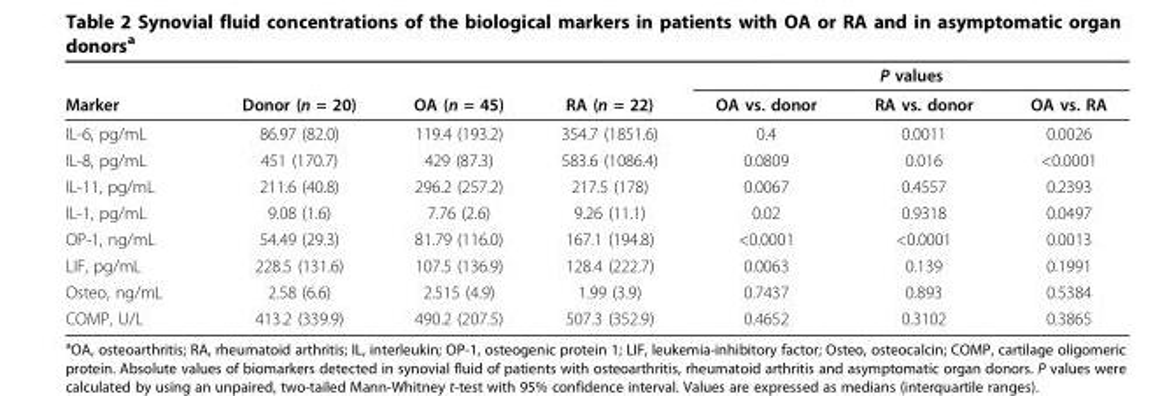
<table><thead><tr><td rowspan="2">Marker</td><td rowspan="2">Donor (n = 20)</td><td rowspan="2">OA (n = 45)</td><td rowspan="2">RA (n = 22)</td><td colspan="3">P values</td></tr><tr><td>OA vs. donor</td><td>RA vs. donor</td><td>OA vs. RA</td></tr></thead><tbody><tr><td>IL-6, pg/mL</td><td>86.97 (82.0)</td><td>119.4 (193.2)</td><td>354.7 (1851.6)</td><td>0.4</td><td>0.0011</td><td>0.0026</td></tr><tr><td>IL-8, pg/mL</td><td>451 (170.7)</td><td>429 (87.3)</td><td>583.6 (1086.4)</td><td>0.0809</td><td>0.016</td><td>&lt;0.0001</td></tr><tr><td>IL-11, pg/mL</td><td>211.6 (40.8)</td><td>296.2 (257.2)</td><td>217.5 (178)</td><td>0.0067</td><td>0.4557</td><td>0.2393</td></tr><tr><td>IL-1, pg/mL</td><td>9.08 (1.6)</td><td>7.76 (2.6)</td><td>9.26 (11.1)</td><td>0.02</td><td>0.9318</td><td>0.0497</td></tr><tr><td>OP-1, ng/mL</td><td>54.49 (29.3)</td><td>81.79 (116.0)</td><td>167.1 (194.8)</td><td>&lt;0.0001</td><td>&lt;0.0001</td><td>0.0013</td></tr><tr><td>LIF, pg/mL</td><td>228.5 (131.6)</td><td>107.5 (136.9)</td><td>128.4 (222.7)</td><td>0.0063</td><td>0.139</td><td>0.1991</td></tr><tr><td>Osteo, ng/mL</td><td>2.58 (6.6)</td><td>2.515 (4.9)</td><td>1.99 (3.9)</td><td>0.7437</td><td>0.893</td><td>0.5384</td></tr><tr><td>COMP, U/L</td><td>413.2 (339.9)</td><td>490.2 (207.5)</td><td>507.3 (352.9)</td><td>0.4652</td><td>0.3102</td><td>0.3865</td></tr></tbody></table>